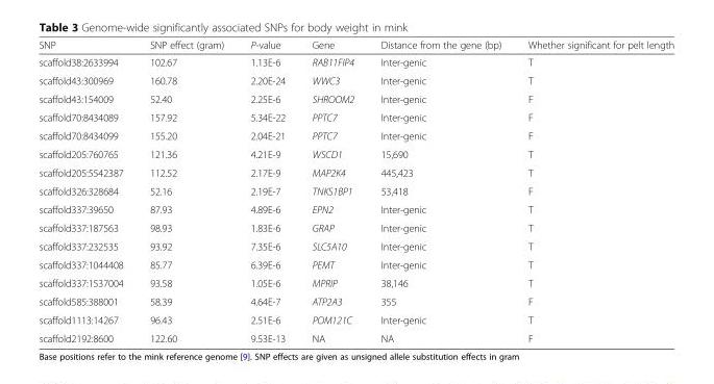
<table><thead><tr><td>SNP</td><td>SNP effect (gram)</td><td>P-value</td><td>Gene</td><td>Distance from the gene (bp)</td><td>Whether significant for pelt length</td></tr></thead><tbody><tr><td>scaffold38:2633994</td><td>102.67</td><td>1.13E-6</td><td>RAB11FIP4</td><td>Inter-genic</td><td>T</td></tr><tr><td>scaffold43:300969</td><td>160.78</td><td>2.20E-24</td><td>WWC3</td><td>Inter-genic</td><td>T</td></tr><tr><td>scaffold43:154009</td><td>52.40</td><td>2.25E-6</td><td>SHROOM2</td><td>Inter-genic</td><td>F</td></tr><tr><td>scaffold70:8434089</td><td>157.92</td><td>5.34E-22</td><td>PPTC7</td><td>Inter-genic</td><td>F</td></tr><tr><td>scaffold70:8434099</td><td>155.20</td><td>2.04E-21</td><td>PPTC7</td><td>Inter-genic</td><td>F</td></tr><tr><td>scaffold205:760765</td><td>121.36</td><td>4.21E-9</td><td>WSCD1</td><td>15,690</td><td>T</td></tr><tr><td>scaffold205:5542387</td><td>112.52</td><td>2.17E-9</td><td>MAP2K4</td><td>445,423</td><td>T</td></tr><tr><td>scaffold326:328684</td><td>52.16</td><td>2.19E-7</td><td>TNKS1BP1</td><td>53,418</td><td>F</td></tr><tr><td>scaffold337:39650</td><td>87.93</td><td>4.89E-6</td><td>EPN2</td><td>Inter-genic</td><td>T</td></tr><tr><td>scaffold337:187563</td><td>98.93</td><td>1.83E-6</td><td>GRAP</td><td>Inter-genic</td><td>T</td></tr><tr><td>scaffold337:232535</td><td>93.92</td><td>7.35E-6</td><td>SLC5A10</td><td>Inter-genic</td><td>T</td></tr><tr><td>scaffold337:1044408</td><td>85.77</td><td>6.39E-6</td><td>PEMT</td><td>Inter-genic</td><td>T</td></tr><tr><td>scaffold337:1537004</td><td>93.58</td><td>1.05E-6</td><td>MPRIP</td><td>38,146</td><td>T</td></tr><tr><td>scaffold585:388001</td><td>58.39</td><td>4.64E-7</td><td>ATP2A3</td><td>355</td><td>F</td></tr><tr><td>scaffold1113:14267</td><td>96.43</td><td>2.51E-6</td><td>POM121C</td><td>Inter-genic</td><td>T</td></tr><tr><td>scaffold2192:8600</td><td>122.60</td><td>9.53E-13</td><td>NA</td><td>NA</td><td>F</td></tr></tbody></table>